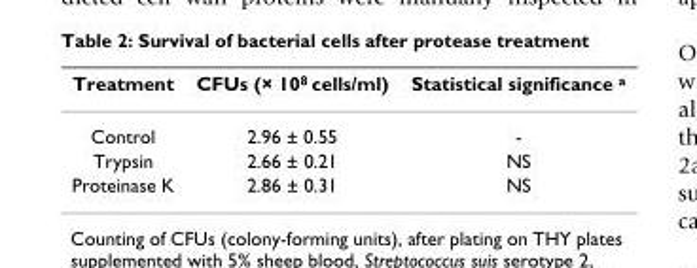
<table><thead><tr><td>Treatment</td><td>CFUs (× 10<sup>8</sup> cells/ml)</td><td>Statistical significance <sup>a</sup></td></tr></thead><tbody><tr><td>Control</td><td>2.96 ± 0.55</td><td>-</td></tr><tr><td>Trypsin</td><td>2.66 ± 0.21</td><td>NS</td></tr><tr><td>Proteinase K</td><td>2.86 ± 0.31</td><td>NS</td></tr></tbody></table>